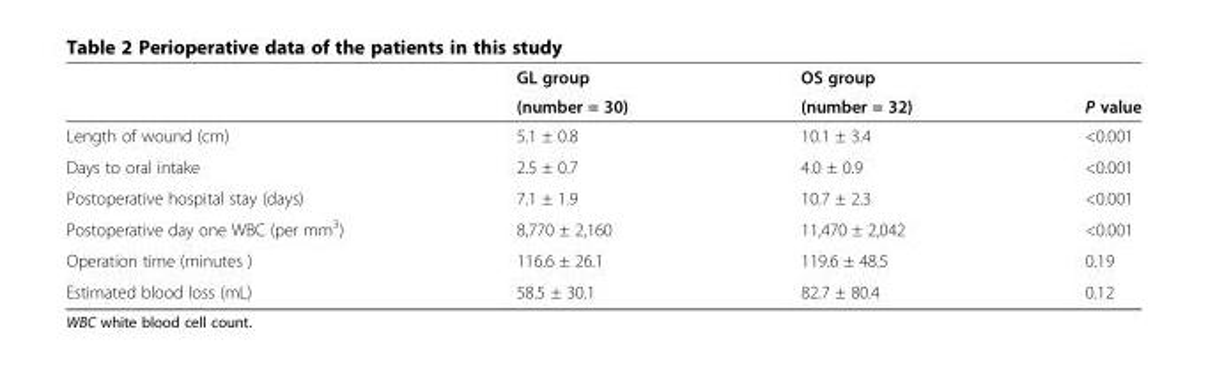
<table><thead><tr><td rowspan="2"></td><td rowspan="2">GL group (number = 30)</td><td rowspan="2">OS group (number = 32)</td><td rowspan="2">P value</td></tr><tr></tr></thead><tbody><tr><td>Length of wound (cm)</td><td>5.1 ± 0.8</td><td>10.1 ± 3.4</td><td>&lt;0.001</td></tr><tr><td>Days to oral intake</td><td>2.5 ± 0.7</td><td>4.0 ± 0.9</td><td>&lt;0.001</td></tr><tr><td>Postoperative hospital stay (days)</td><td>7.1 ± 1.9</td><td>10.7 ± 2.3</td><td>&lt;0.001</td></tr><tr><td>Postoperative day one WBC (per mm<sup>3</sup>)</td><td>8,770 ± 2,160</td><td>11,470 ± 2,042</td><td>&lt;0.001</td></tr><tr><td>Operation time (minutes )</td><td>116.6 ± 26.1</td><td>119.6 ± 48.5</td><td>0.19</td></tr><tr><td>Estimated blood loss (mL)</td><td>58.5 ± 30.1</td><td>82.7 ± 80.4</td><td>0.12</td></tr></tbody></table>